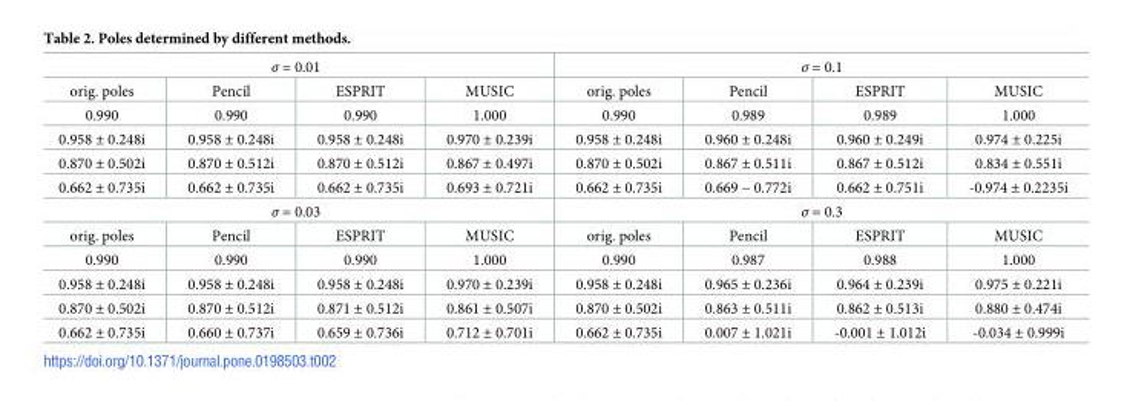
<table><tbody><tr><td colspan="4">σ = 0.01</td><td colspan="4">σ = 0.1</td></tr><tr><td>orig. poles</td><td>Pencil</td><td>ESPRIT</td><td>MUSIC</td><td>orig. poles</td><td>Pencil</td><td>ESPRIT</td><td>MUSIC</td></tr><tr><td>0.990</td><td>0.990</td><td>0.990</td><td>1.000</td><td>0.990</td><td>0.989</td><td>0.989</td><td>1.000</td></tr><tr><td>0.958 ± 0.248i</td><td>0.958 ± 0.248i</td><td>0.958 ± 0.248i</td><td>0.970 ± 0.239i</td><td>0.958 ± 0.248i</td><td>0.960 ± 0.248i</td><td>0.960 ± 0.249i</td><td>0.974 ± 0.225i</td></tr><tr><td>0.870 ± 0.502i</td><td>0.870 ± 0.512i</td><td>0.870 ± 0.512i</td><td>0.867 ± 0.497i</td><td>0.870 ± 0.502i</td><td>0.867 ± 0.511i</td><td>0.867 ± 0.512i</td><td>0.834 ± 0.551i</td></tr><tr><td>0.662 ± 0.735i</td><td>0.662 ± 0.735i</td><td>0.662 ± 0.735i</td><td>0.693 ± 0.721i</td><td>0.662 ± 0.735i</td><td>0.669 − 0.772i</td><td>0.662 ± 0.751i</td><td>-0.974 ± 0.2235i</td></tr><tr><td colspan="4">σ = 0.03</td><td colspan="4">σ = 0.3</td></tr><tr><td>orig. poles</td><td>Pencil</td><td>ESPRIT</td><td>MUSIC</td><td>orig. poles</td><td>Pencil</td><td>ESPRIT</td><td>MUSIC</td></tr><tr><td>0.990</td><td>0.990</td><td>0.990</td><td>1.000</td><td>0.990</td><td>0.987</td><td>0.988</td><td>1.000</td></tr><tr><td>0.958 ± 0.248i</td><td>0.958 ± 0.248i</td><td>0.958 ± 0.248i</td><td>0.970 ± 0.239i</td><td>0.958 ± 0.248i</td><td>0.965 ± 0.236i</td><td>0.964 ± 0.239i</td><td>0.975 ± 0.221i</td></tr><tr><td>0.870 ± 0.502i</td><td>0.870 ± 0.512i</td><td>0.871 ± 0.512i</td><td>0.861 ± 0.507i</td><td>0.870 ± 0.502i</td><td>0.863 ± 0.511i</td><td>0.862 ± 0.513i</td><td>0.880 ± 0.474i</td></tr><tr><td>0.662 ± 0.735i</td><td>0.660 ± 0.737i</td><td>0.659 ± 0.736i</td><td>0.712 ± 0.701i</td><td>0.662 ± 0.735i</td><td>0.007 ± 1.021i</td><td>-0.001 ± 1.012i</td><td>-0.034 ± 0.999i</td></tr></tbody></table>